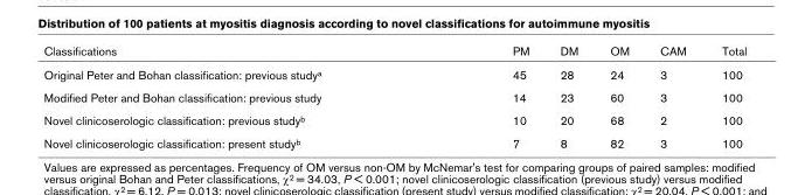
<table><thead><tr><td>Classifications</td><td>PM</td><td>DM</td><td>OM</td><td>CAM</td><td>Total</td></tr></thead><tbody><tr><td>Original Peter and Bohan classification: previous study<sup>a</sup></td><td>45</td><td>28</td><td>24</td><td>3</td><td>100</td></tr><tr><td>Modified Peter and Bohan classification: previous study</td><td>14</td><td>23</td><td>60</td><td>3</td><td>100</td></tr><tr><td>Novel clinicoserologic classification: previous study<sup>b</sup></td><td>10</td><td>20</td><td>68</td><td>2</td><td>100</td></tr><tr><td>Novel clinicoserologic classification: present study<sup>b</sup></td><td>7</td><td>8</td><td>82</td><td>3</td><td>100</td></tr></tbody></table>